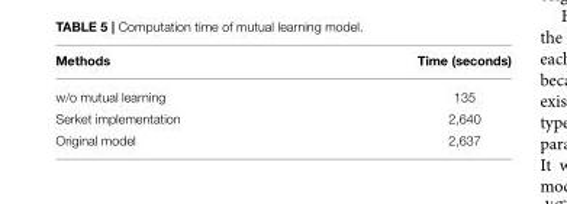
<table><thead><tr><td>Methods</td><td>Time (seconds)</td></tr></thead><tbody><tr><td>w/o mutual learning</td><td>135</td></tr><tr><td>Serket implementation</td><td>2,640</td></tr><tr><td>Original model</td><td>2,637</td></tr></tbody></table>